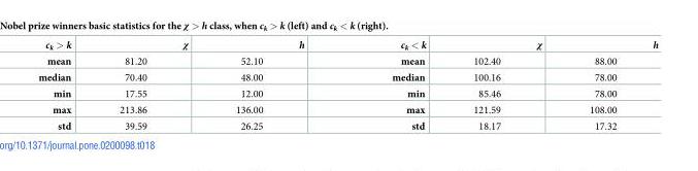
<table><thead><tr><td>c<sub>k</sub> &gt; k</td><td>χ</td><td>h</td><td>c<sub>k</sub> &lt; k</td><td>χ</td><td>h</td></tr></thead><tbody><tr><td>mean</td><td>81.20</td><td>52.10</td><td>mean</td><td>102.40</td><td>88.00</td></tr><tr><td>median</td><td>70.40</td><td>48.00</td><td>median</td><td>100.16</td><td>78.00</td></tr><tr><td>min</td><td>17.55</td><td>12.00</td><td>min</td><td>85.46</td><td>78.00</td></tr><tr><td>max</td><td>213.86</td><td>136.00</td><td>max</td><td>121.59</td><td>108.00</td></tr><tr><td>std</td><td>39.59</td><td>26.25</td><td>std</td><td>18.17</td><td>17.32</td></tr></tbody></table>